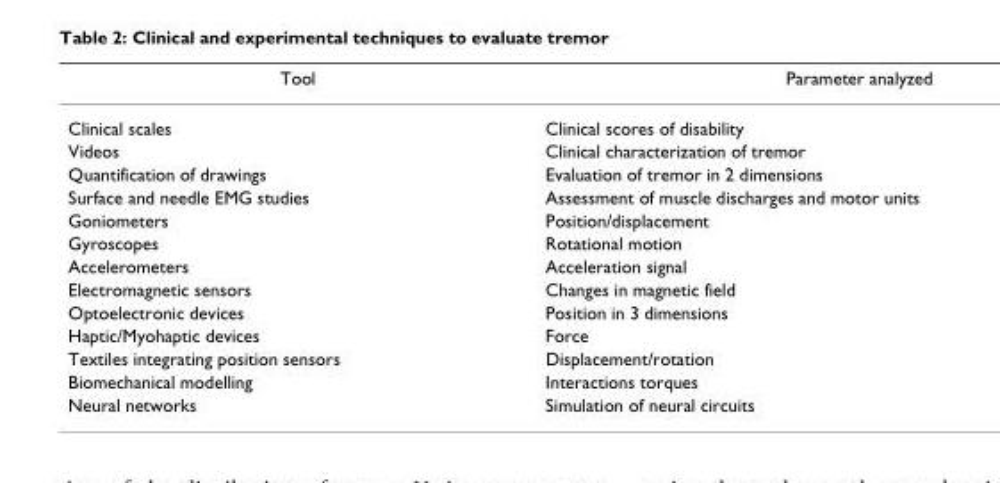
<table><thead><tr><td>Tool</td><td>Parameter analyzed</td></tr></thead><tbody><tr><td>Clinical scales</td><td>Clinical scores of disability</td></tr><tr><td>Videos</td><td>Clinical characterization of tremor</td></tr><tr><td>Quantification of drawings</td><td>Evaluation of tremor in 2 dimensions</td></tr><tr><td>Surface and needle EMG studies</td><td>Assessment of muscle discharges and motor units</td></tr><tr><td>Goniometers</td><td>Position/displacement</td></tr><tr><td>Gyroscopes</td><td>Rotational motion</td></tr><tr><td>Accelerometers</td><td>Acceleration signal</td></tr><tr><td>Electromagnetic sensors</td><td>Changes in magnetic field</td></tr><tr><td>Optoelectronic devices</td><td>Position in 3 dimensions</td></tr><tr><td>Haptic/Myohaptic devices</td><td>Force</td></tr><tr><td>Textiles integrating position sensors</td><td>Displacement/rotation</td></tr><tr><td>Biomechanical modelling</td><td>Interactions torques</td></tr><tr><td>Neural networks</td><td>Simulation of neural circuits</td></tr></tbody></table>